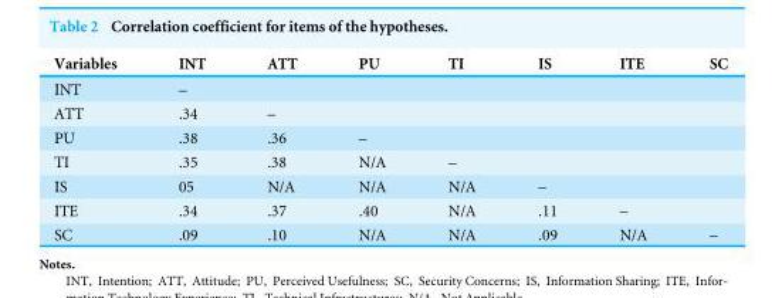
<table><thead><tr><td>Variables</td><td>INT</td><td>ATT</td><td>PU</td><td>TI</td><td>IS</td><td>ITE</td><td>SC</td></tr></thead><tbody><tr><td>INT</td><td>–</td><td></td><td></td><td></td><td></td><td></td><td></td></tr><tr><td>ATT</td><td>.34</td><td>–</td><td></td><td></td><td></td><td></td><td></td></tr><tr><td>PU</td><td>.38</td><td>.36</td><td>–</td><td></td><td></td><td></td><td></td></tr><tr><td>TI</td><td>.35</td><td>.38</td><td>N/A</td><td>–</td><td></td><td></td><td></td></tr><tr><td>IS</td><td>05</td><td>N/A</td><td>N/A</td><td>N/A</td><td>–</td><td></td><td></td></tr><tr><td>ITE</td><td>.34</td><td>.37</td><td>.40</td><td>N/A</td><td>.11</td><td>–</td><td></td></tr><tr><td>SC</td><td>.09</td><td>.10</td><td>N/A</td><td>N/A</td><td>.09</td><td>N/A</td><td>–</td></tr></tbody></table>